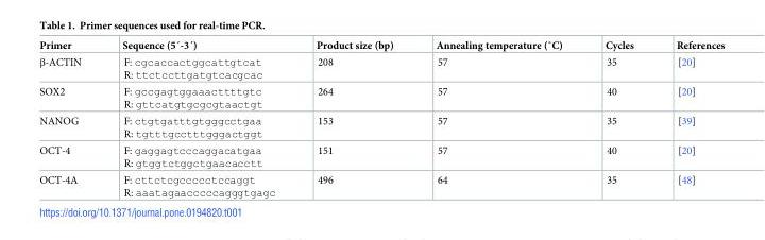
<table><thead><tr><td>Primer</td><td>Sequence (5´-3´)</td><td>Product size (bp)</td><td>Annealing temperature (˚C)</td><td>Cycles</td><td>References</td></tr></thead><tbody><tr><td>β-ACTIN</td><td>F: cgcaccactggcattgtcat R: ttctccttgatgtcacgcac</td><td>208</td><td>57</td><td>35</td><td>[20]</td></tr><tr><td>SOX2</td><td>F: gccgagtggaaacttttgtc R: gttcatgtgcgcgtaactgt</td><td>264</td><td>57</td><td>40</td><td>[20]</td></tr><tr><td>NANOG</td><td>F: ctgtgatttgtgggcctgaa R: tgtttgcctttgggactggt</td><td>153</td><td>57</td><td>35</td><td>[39]</td></tr><tr><td>OCT-4</td><td>F: gaggagtcccaggacatgaa R: gtggtctggctgaacacctt</td><td>151</td><td>57</td><td>40</td><td>[20]</td></tr><tr><td>OCT-4A</td><td>F: cttctcgccccctccaggt R: aaatagaacccccagggtgagc</td><td>496</td><td>64</td><td>35</td><td>[48]</td></tr></tbody></table>